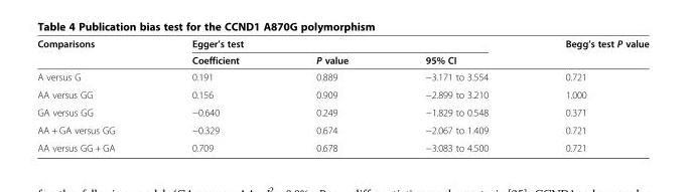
<table><thead><tr><td rowspan="2">Comparisons</td><td colspan="3">Egger’s test</td><td rowspan="2">Begg’s test P value</td></tr><tr><td>Coefficient</td><td>P value</td><td>95% CI</td></tr></thead><tbody><tr><td>A versus G</td><td>0.191</td><td>0.889</td><td>−3.171 to 3.554</td><td>0.721</td></tr><tr><td>AA versus GG</td><td>0.156</td><td>0.909</td><td>−2.899 to 3.210</td><td>1.000</td></tr><tr><td>GA versus GG</td><td>−0.640</td><td>0.249</td><td>−1.829 to 0.548</td><td>0.371</td></tr><tr><td>AA + GA versus GG</td><td>−0.329</td><td>0.674</td><td>−2.067 to 1.409</td><td>0.721</td></tr><tr><td>AA versus GG + GA</td><td>0.709</td><td>0.678</td><td>−3.083 to 4.500</td><td>0.721</td></tr></tbody></table>